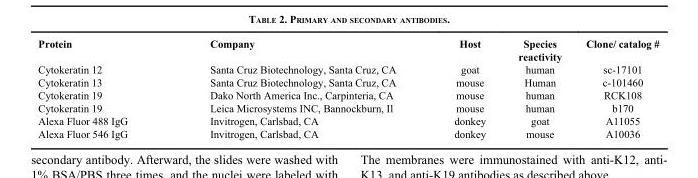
<table><thead><tr><td>Protein</td><td>Company</td><td>Host</td><td>Species reactivity</td><td>Clone/ catalog #</td></tr></thead><tbody><tr><td>Cytokeratin 12</td><td>Santa Cruz Biotechnology, Santa Cruz, CA</td><td>goat</td><td>human</td><td>sc-17101</td></tr><tr><td>Cytokeratin 13</td><td>Santa Cruz Biotechnology, Santa Cruz, CA</td><td>mouse</td><td>Human</td><td>c-101460</td></tr><tr><td>Cytokeratin 19</td><td>Dako North America Inc., Carpinteria, CA</td><td>mouse</td><td>human</td><td>RCK108</td></tr><tr><td>Cytokeratin 19</td><td>Leica Microsystems INC, Bannockburn, Il</td><td>mouse</td><td>human</td><td>b170</td></tr><tr><td>Alexa Fluor 488 IgG</td><td>Invitrogen, Carlsbad, CA</td><td>donkey</td><td>goat</td><td>A11055</td></tr><tr><td>Alexa Fluor 546 IgG</td><td>Invitrogen, Carlsbad, CA</td><td>donkey</td><td>mouse</td><td>A10036</td></tr></tbody></table>